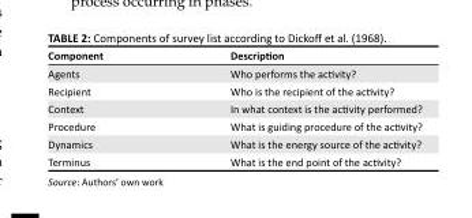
<table><thead><tr><td>Component</td><td>Description</td></tr></thead><tbody><tr><td>Agents</td><td>Who performs the activity?</td></tr><tr><td>Recipient</td><td>Who is the recipient of the activity?</td></tr><tr><td>Context</td><td>In what context is the activity performed?</td></tr><tr><td>Procedure</td><td>What is guiding procedure of the activity?</td></tr><tr><td>Dynamics</td><td>What is the energy source of the activity?</td></tr><tr><td>Terminus</td><td>What is the end point of the activity?</td></tr></tbody></table>